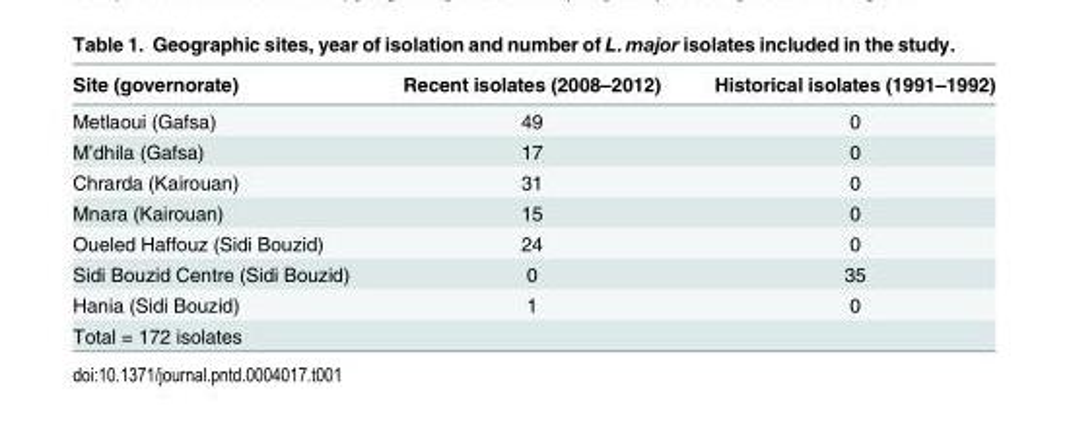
<table><thead><tr><td>Site (governorate)</td><td>Recent isolates (2008–2012)</td><td>Historical isolates (1991–1992)</td></tr></thead><tbody><tr><td>Metlaoui (Gafsa)</td><td>49</td><td>0</td></tr><tr><td>M’dhila (Gafsa)</td><td>17</td><td>0</td></tr><tr><td>Chrarda (Kairouan)</td><td>31</td><td>0</td></tr><tr><td>Mnara (Kairouan)</td><td>15</td><td>0</td></tr><tr><td>Oueled Haffouz (Sidi Bouzid)</td><td>24</td><td>0</td></tr><tr><td>Sidi Bouzid Centre (Sidi Bouzid)</td><td>0</td><td>35</td></tr><tr><td>Hania (Sidi Bouzid)</td><td>1</td><td>0</td></tr><tr><td colspan="3">Total = 172 isolates</td></tr></tbody></table>